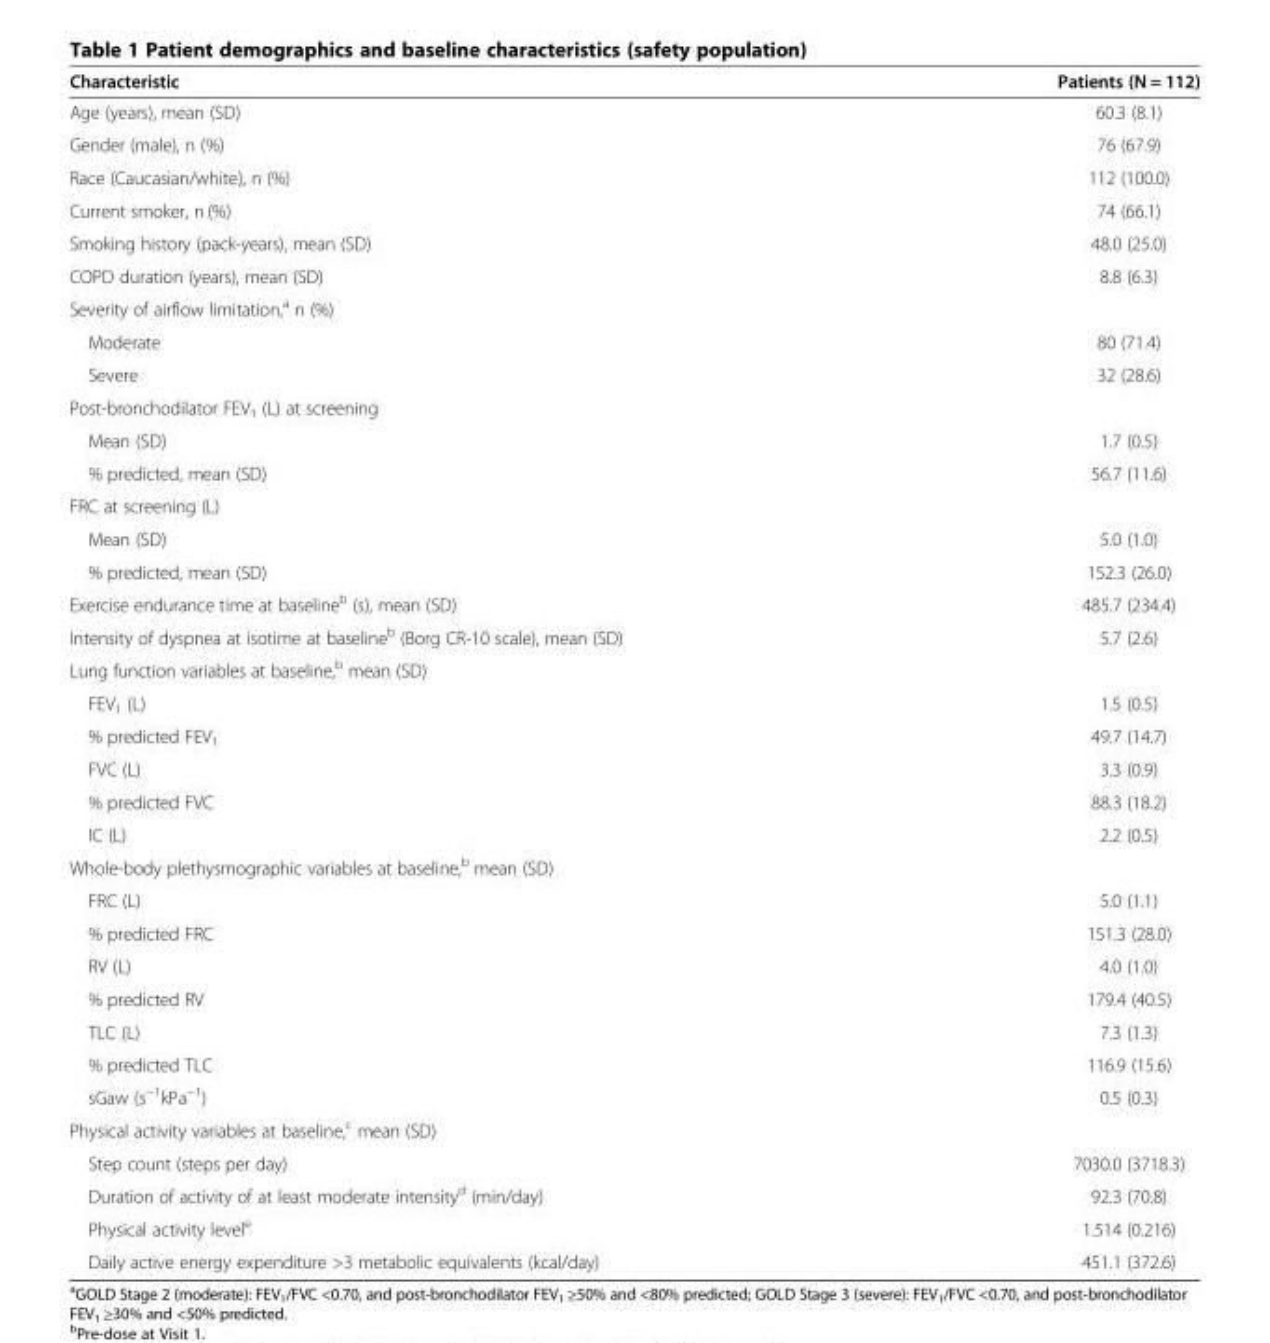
<table><thead><tr><td>Characteristic</td><td>Patients (N = 112)</td></tr></thead><tbody><tr><td>Age (years), mean (SD)</td><td>60.3 (8.1)</td></tr><tr><td>Gender (male), n (%)</td><td>76 (67.9)</td></tr><tr><td>Race (Caucasian/white), n (%)</td><td>112 (100.0)</td></tr><tr><td>Current smoker, n (%)</td><td>74 (66.1)</td></tr><tr><td>Smoking history (pack-years), mean (SD)</td><td>48.0 (25.0)</td></tr><tr><td>COPD duration (years), mean (SD)</td><td>8.8 (6.3)</td></tr><tr><td colspan="2">Severity of airflow limitation,<sup>a</sup> n (%)</td></tr><tr><td>Moderate</td><td>80 (71.4)</td></tr><tr><td>Severe</td><td>32 (28.6)</td></tr><tr><td colspan="2">Post-bronchodilator FEV<sub>1</sub> (L) at screening</td></tr><tr><td>Mean (SD)</td><td>1.7 (0.5)</td></tr><tr><td>% predicted, mean (SD)</td><td>56.7 (11.6)</td></tr><tr><td colspan="2">FRC at screening (L)</td></tr><tr><td>Mean (SD)</td><td>5.0 (1.0)</td></tr><tr><td>% predicted, mean (SD)</td><td>152.3 (26.0)</td></tr><tr><td>Exercise endurance time at baseline<sup>b</sup> (s), mean (SD)</td><td>485.7 (234.4)</td></tr><tr><td>Intensity of dyspnea at isotime at baseline<sup>b</sup> (Borg CR-10 scale), mean (SD)</td><td>5.7 (2.6)</td></tr><tr><td colspan="2">Lung function variables at baseline,<sup>b</sup> mean (SD)</td></tr><tr><td>FEV<sub>1</sub> (L)</td><td>1.5 (0.5)</td></tr><tr><td>% predicted FEV<sub>1</sub></td><td>49.7 (14.7)</td></tr><tr><td>FVC (L)</td><td>3.3 (0.9)</td></tr><tr><td>% predicted FVC</td><td>88.3 (18.2)</td></tr><tr><td>IC (L)</td><td>2.2 (0.5)</td></tr><tr><td colspan="2">Whole-body plethysmographic variables at baseline,<sup>b</sup> mean (SD)</td></tr><tr><td>FRC (L)</td><td>5.0 (1.1)</td></tr><tr><td>% predicted FRC</td><td>151.3 (28.0)</td></tr><tr><td>RV (L)</td><td>4.0 (1.0)</td></tr><tr><td>% predicted RV</td><td>179.4 (40.5)</td></tr><tr><td>TLC (L)</td><td>7.3 (1.3)</td></tr><tr><td>% predicted TLC</td><td>116.9 (15.6)</td></tr><tr><td>sGaw (s<sup>−1</sup>kPa<sup>−1</sup>)</td><td>0.5 (0.3)</td></tr><tr><td colspan="2">Physical activity variables at baseline,<sup>c</sup> mean (SD)</td></tr><tr><td>Step count (steps per day)</td><td>7030.0 (3718.3)</td></tr><tr><td>Duration of activity of at least moderate intensity<sup>d</sup> (min/day)</td><td>92.3 (70.8)</td></tr><tr><td>Physical activity level<sup>e</sup></td><td>1.514 (0.216)</td></tr><tr><td>Daily active energy expenditure &gt;3 metabolic equivalents (kcal/day)</td><td>451.1 (372.6)</td></tr></tbody></table>